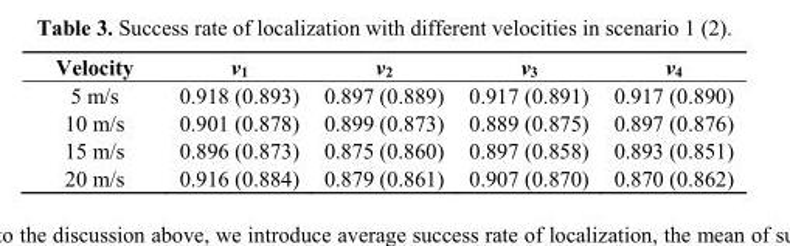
<table><thead><tr><td>Velocity</td><td>v<sub>1</sub></td><td>v<sub>2</sub></td><td>v<sub>3</sub></td><td>v<sub>4</sub></td></tr></thead><tbody><tr><td>5 m/s</td><td>0.918 (0.893)</td><td>0.897 (0.889)</td><td>0.917 (0.891)</td><td>0.917 (0.890)</td></tr><tr><td>10 m/s</td><td>0.901 (0.878)</td><td>0.899 (0.873)</td><td>0.889 (0.875)</td><td>0.897 (0.876)</td></tr><tr><td>15 m/s</td><td>0.896 (0.873)</td><td>0.875 (0.860)</td><td>0.897 (0.858)</td><td>0.893 (0.851)</td></tr><tr><td>20 m/s</td><td>0.916 (0.884)</td><td>0.879 (0.861)</td><td>0.907 (0.870)</td><td>0.870 (0.862)</td></tr></tbody></table>